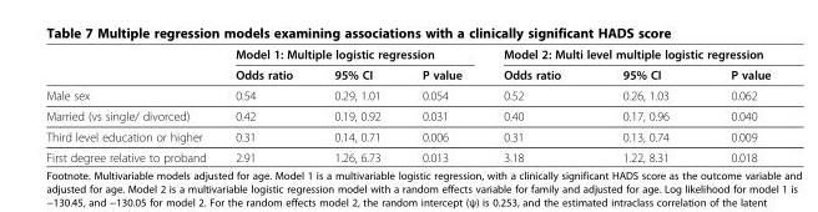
<table><thead><tr><td rowspan="2"></td><td colspan="3">Model 1: Multiple logistic regression</td><td colspan="3">Model 2: Multi level multiple logistic regression</td></tr><tr><td>Odds ratio</td><td>95% CI</td><td>P value</td><td>Odds ratio</td><td>95% CI</td><td>P value</td></tr></thead><tbody><tr><td>Male sex</td><td>0.54</td><td>0.29, 1.01</td><td>0.054</td><td>0.52</td><td>0.26, 1.03</td><td>0.062</td></tr><tr><td>Married (vs single/ divorced)</td><td>0.42</td><td>0.19, 0.92</td><td>0.031</td><td>0.40</td><td>0.17, 0.96</td><td>0.040</td></tr><tr><td>Third level education or higher</td><td>0.31</td><td>0.14, 0.71</td><td>0.006</td><td>0.31</td><td>0.13, 0.74</td><td>0.009</td></tr><tr><td>First degree relative to proband</td><td>2.91</td><td>1.26, 6.73</td><td>0.013</td><td>3.18</td><td>1.22, 8.31</td><td>0.018</td></tr></tbody></table>